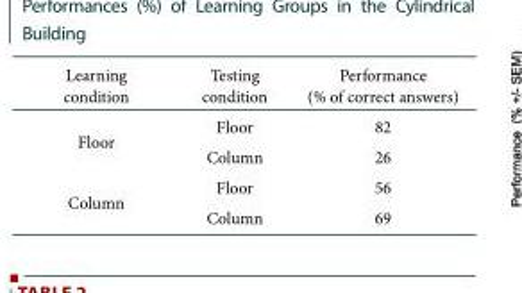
<table><thead><tr><td>Learning condition</td><td>Testing condition</td><td>Performance (% of correct answers)</td></tr></thead><tbody><tr><td rowspan="2">Floor</td><td>Floor</td><td>82</td></tr><tr><td>Column</td><td>26</td></tr><tr><td rowspan="2">Column</td><td>Floor</td><td>56</td></tr><tr><td>Column</td><td>69</td></tr></tbody></table>